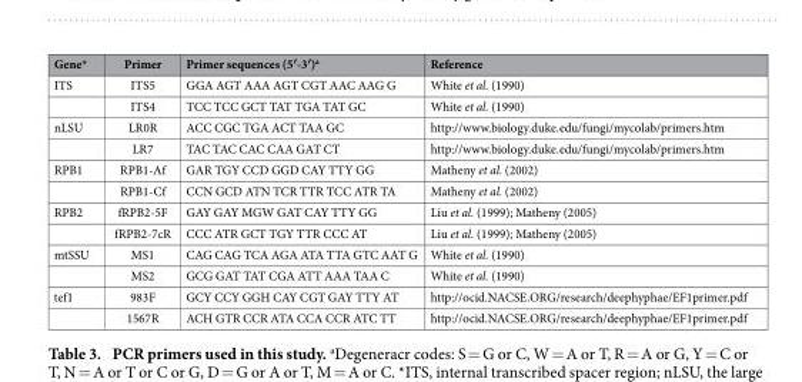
<table><thead><tr><td>Gene*</td><td>Primer</td><td>Primer sequences (5′-3′)<sup>a</sup></td><td>Reference</td></tr></thead><tbody><tr><td rowspan="2">ITS</td><td>ITS5</td><td>GGA AGT AAA AGT CGT AAC AAG G</td><td>White et al. (1990)</td></tr><tr><td>ITS4</td><td>TCC TCC GCT TAT TGA TAT GC</td><td>White et al. (1990)</td></tr><tr><td rowspan="2">nLSU</td><td>LR0R</td><td>ACC CGC TGA ACT TAA GC</td><td>http://www.biology.duke.edu/fungi/mycolab/primers.htm</td></tr><tr><td>LR7</td><td>TAC TAC CAC CAA GAT CT</td><td>http://www.biology.duke.edu/fungi/mycolab/primers.htm</td></tr><tr><td rowspan="2">RPB1</td><td>RPB1-Af</td><td>GAR TGY CCD GGD CAY TTY GG</td><td>Matheny et al. (2002)</td></tr><tr><td>RPB1-Cf</td><td>CCN GCD ATN TCR TTR TCC ATR TA</td><td>Matheny et al. (2002)</td></tr><tr><td rowspan="2">RPB2</td><td>fRPB2-5F</td><td>GAY GAY MGW GAT CAY TTY GG</td><td>Liu et al. (1999); Matheny (2005)</td></tr><tr><td>fRPB2-7cR</td><td>CCC ATR GCT TGY TTR CCC AT</td><td>Liu et al. (1999); Matheny (2005)</td></tr><tr><td rowspan="2">mtSSU</td><td>MS1</td><td>CAG CAG TCA AGA ATA TTA GTC AAT G</td><td>White et al. (1990)</td></tr><tr><td>MS2</td><td>GCG GAT TAT CGA ATT AAA TAA C</td><td>White et al. (1990)</td></tr><tr><td rowspan="2">tef1</td><td>983F</td><td>GCY CCY GGH CAY CGT GAY TTY AT</td><td>http://ocid.NACSE.ORG/research/deephyphae/EF1primer.pdf</td></tr><tr><td>1567R</td><td>ACH GTR CCR ATA CCA CCR ATC TT</td><td>http://ocid.NACSE.ORG/research/deephyphae/EF1primer.pdf</td></tr></tbody></table>